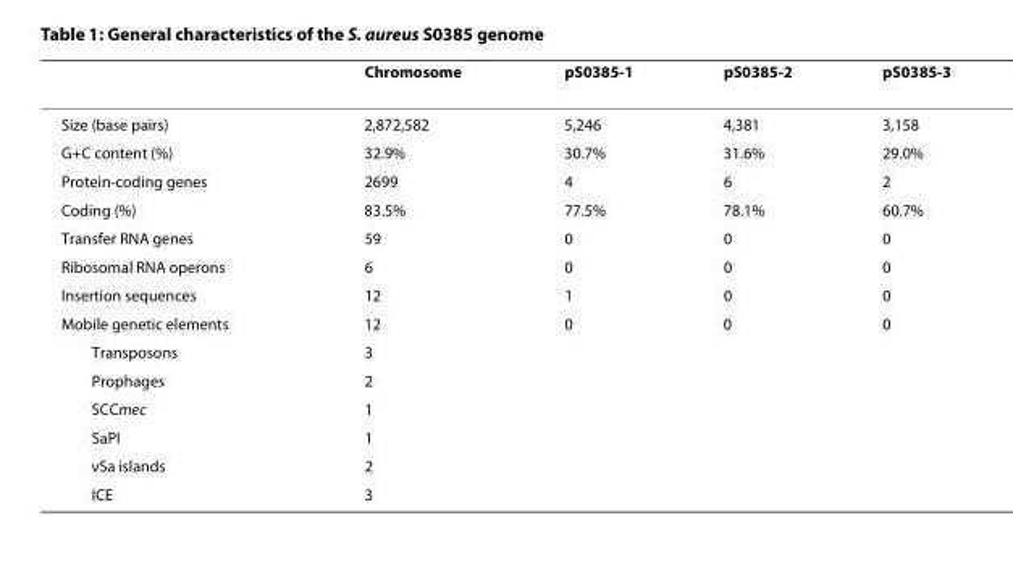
<table><thead><tr><td></td><td>Chromosome</td><td>pS0385-1</td><td>pS0385-2</td><td>pS0385-3</td></tr></thead><tbody><tr><td>Size (base pairs)</td><td>2,872,582</td><td>5,246</td><td>4,381</td><td>3,158</td></tr><tr><td>G+C content (%)</td><td>32.9%</td><td>30.7%</td><td>31.6%</td><td>29.0%</td></tr><tr><td>Protein-coding genes</td><td>2699</td><td>4</td><td>6</td><td>2</td></tr><tr><td>Coding (%)</td><td>83.5%</td><td>77.5%</td><td>78.1%</td><td>60.7%</td></tr><tr><td>Transfer RNA genes</td><td>59</td><td>0</td><td>0</td><td>0</td></tr><tr><td>Ribosomal RNA operons</td><td>6</td><td>0</td><td>0</td><td>0</td></tr><tr><td>Insertion sequences</td><td>12</td><td>1</td><td>0</td><td>0</td></tr><tr><td>Mobile genetic elements</td><td>12</td><td>0</td><td>0</td><td>0</td></tr><tr><td>Transposons</td><td>3</td><td></td><td></td><td></td></tr><tr><td>Prophages</td><td>2</td><td></td><td></td><td></td></tr><tr><td>SCCmec</td><td>1</td><td></td><td></td><td></td></tr><tr><td>SaPI</td><td>1</td><td></td><td></td><td></td></tr><tr><td>νSa islands</td><td>2</td><td></td><td></td><td></td></tr><tr><td>ICE</td><td>3</td><td></td><td></td><td></td></tr></tbody></table>